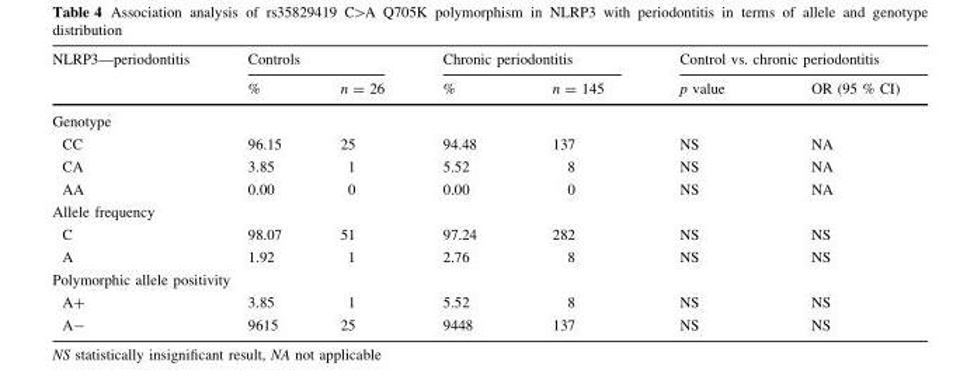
<table><thead><tr><td rowspan="2">NLRP3—periodontitis</td><td colspan="2">Controls</td><td colspan="2">Chronic periodontitis</td><td colspan="2">Control vs. chronic periodontitis</td></tr><tr><td>%</td><td>n = 26</td><td>%</td><td>n = 145</td><td>p value</td><td>OR (95 % CI)</td></tr></thead><tbody><tr><td colspan="7">Genotype</td></tr><tr><td>CC</td><td>96.15</td><td>25</td><td>94.48</td><td>137</td><td>NS</td><td>NA</td></tr><tr><td>CA</td><td>3.85</td><td>1</td><td>5.52</td><td>8</td><td>NS</td><td>NA</td></tr><tr><td>AA</td><td>0.00</td><td>0</td><td>0.00</td><td>0</td><td>NS</td><td>NA</td></tr><tr><td colspan="7">Allele frequency</td></tr><tr><td>C</td><td>98.07</td><td>51</td><td>97.24</td><td>282</td><td>NS</td><td>NS</td></tr><tr><td>A</td><td>1.92</td><td>1</td><td>2.76</td><td>8</td><td>NS</td><td>NS</td></tr><tr><td colspan="7">Polymorphic allele positivity</td></tr><tr><td>A+</td><td>3.85</td><td>1</td><td>5.52</td><td>8</td><td>NS</td><td>NS</td></tr><tr><td>A-</td><td>9615</td><td>25</td><td>9448</td><td>137</td><td>NS</td><td>NS</td></tr></tbody></table>